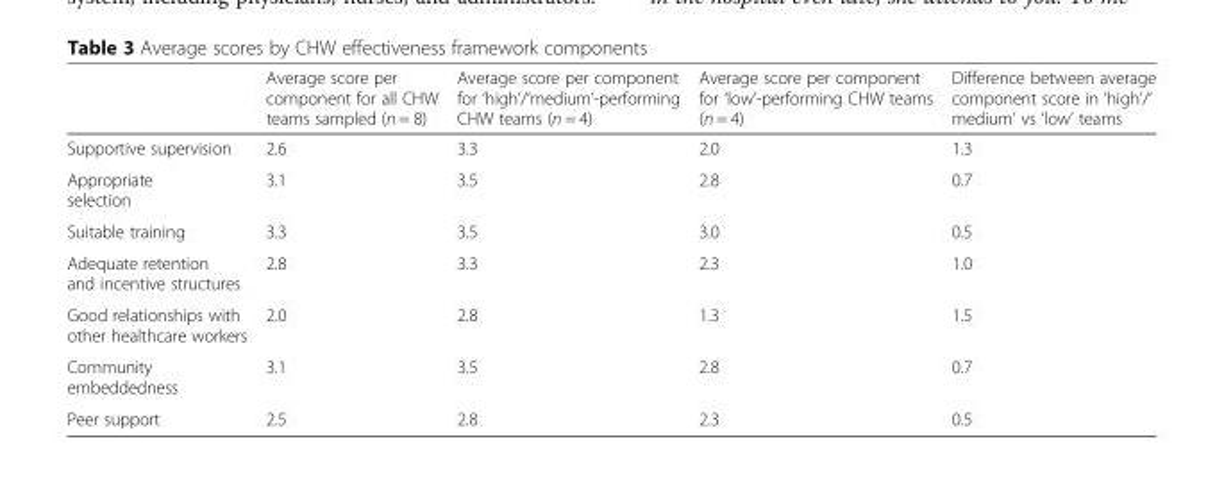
<table><thead><tr><td></td><td>Average score per component for all CHW teams sampled (n = 8)</td><td>Average score per component for ‘high’/‘medium’-performing CHW teams (n = 4)</td><td>Average score per component for ‘low’-performing CHW teams (n = 4)</td><td>Difference between average component score in ‘high’/‘ medium’ vs ‘low’ teams</td></tr></thead><tbody><tr><td>Supportive supervision</td><td>2.6</td><td>3.3</td><td>2.0</td><td>1.3</td></tr><tr><td>Appropriate selection</td><td>3.1</td><td>3.5</td><td>2.8</td><td>0.7</td></tr><tr><td>Suitable training</td><td>3.3</td><td>3.5</td><td>3.0</td><td>0.5</td></tr><tr><td>Adequate retention and incentive structures</td><td>2.8</td><td>3.3</td><td>2.3</td><td>1.0</td></tr><tr><td>Good relationships with other healthcare workers</td><td>2.0</td><td>2.8</td><td>1.3</td><td>1.5</td></tr><tr><td>Community embeddedness</td><td>3.1</td><td>3.5</td><td>2.8</td><td>0.7</td></tr><tr><td>Peer support</td><td>2.5</td><td>2.8</td><td>2.3</td><td>0.5</td></tr></tbody></table>